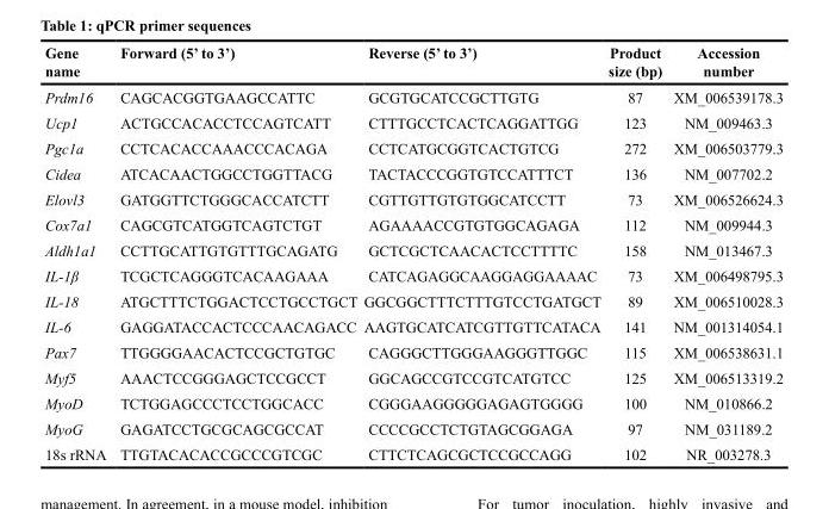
<table><thead><tr><td>Gene name</td><td>Forward (5’ to 3’)</td><td>Reverse (5’ to 3’)</td><td>Product size (bp)</td><td>Accession number</td></tr></thead><tbody><tr><td>Prdm16</td><td>CAGCACGGTGAAGCCATTC</td><td>GCGTGCATCCGCTTGTG</td><td>87</td><td>XM_006539178.3</td></tr><tr><td>Ucp1</td><td>ACTGCCACACCTCCAGTCATT</td><td>CTTTGCCTCACTCAGGATTGG</td><td>123</td><td>NM_009463.3</td></tr><tr><td>Pgc1a</td><td>CCTCACACCAAACCCACAGA</td><td>CCTCATGCGGTCACTGTCG</td><td>272</td><td>XM_006503779.3</td></tr><tr><td>Cidea</td><td>ATCACAACTGGCCTGGTTACG</td><td>TACTACCCGGTGTCCATTTCT</td><td>136</td><td>NM_007702.2</td></tr><tr><td>Elovl3</td><td>GATGGTTCTGGGCACCATCTT</td><td>CGTTGTTGTGTGGCATCCTT</td><td>73</td><td>XM_006526624.3</td></tr><tr><td>Cox7a1</td><td>CAGCGTCATGGTCAGTCTGT</td><td>AGAAAACCGTGTGGCAGAGA</td><td>112</td><td>NM_009944.3</td></tr><tr><td>Aldh1a1</td><td>CCTTGCATTGTGTTTGCAGATG</td><td>GCTCGCTCAACACTCCTTTTC</td><td>158</td><td>NM_013467.3</td></tr><tr><td>IL-1β</td><td>TCGCTCAGGGTCACAAGAAA</td><td>CATCAGAGGCAAGGAGGAAAAC</td><td>73</td><td>XM_006498795.3</td></tr><tr><td>IL-18</td><td>ATGCTTTCTGGACTCCTGCCTGCT</td><td>GGCGGCTTTCTTTGTCCTGATGCT</td><td>89</td><td>XM_006510028.3</td></tr><tr><td>IL-6</td><td>GAGGATACCACTCCCAACAGACC</td><td>AAGTGCATCATCGTTGTTCATACA</td><td>141</td><td>NM_001314054.1</td></tr><tr><td>Pax7</td><td>TTGGGGAACACTCCGCTGTGC</td><td>CAGGGCTTGGGAAGGGTTGGC</td><td>115</td><td>XM_006538631.1</td></tr><tr><td>Myf5</td><td>AAACTCCGGGAGCTCCGCCT</td><td>GGCAGCCGTCCGTCATGTCC</td><td>125</td><td>XM_006513319.2</td></tr><tr><td>MyoD</td><td>TCTGGAGCCCTCCTGGCACC</td><td>CGGGAAGGGGGAGAGTGGGG</td><td>100</td><td>NM_010866.2</td></tr><tr><td>MyoG</td><td>GAGATCCTGCGCAGCGCCAT</td><td>CCCCGCCTCTGTAGCGGAGA</td><td>97</td><td>NM_031189.2</td></tr><tr><td>18s rRNA</td><td>TTGTACACACCGCCCGTCGC</td><td>CTTCTCAGCGCTCCGCCAGG</td><td>102</td><td>NR_003278.3</td></tr></tbody></table>